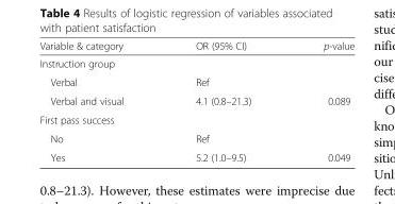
<table><thead><tr><td>Variable &amp; category</td><td>OR (95% CI)</td><td>p-value</td></tr></thead><tbody><tr><td colspan="3">Instruction group</td></tr><tr><td>Verbal</td><td>Ref</td><td></td></tr><tr><td>Verbal and visual</td><td>4.1 (0.8–21.3)</td><td>0.089</td></tr><tr><td colspan="3">First pass success</td></tr><tr><td>No</td><td>Ref</td><td></td></tr><tr><td>Yes</td><td>5.2 (1.0–9.5)</td><td>0.049</td></tr></tbody></table>